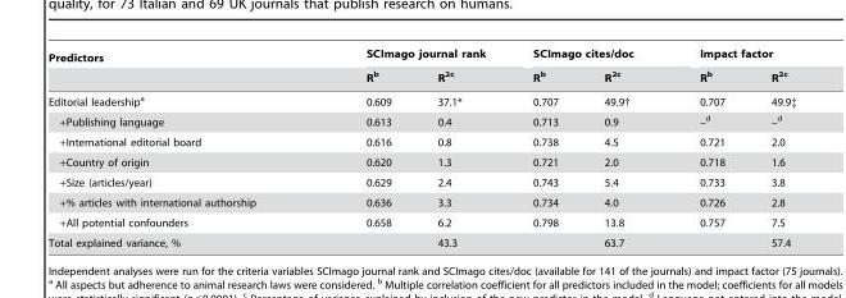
<table><thead><tr><td rowspan="2">Predictors</td><td colspan="2">SCImago journal rank</td><td colspan="2">SCImago cites/doc</td><td colspan="2">Impact factor</td></tr><tr><td>R<sup>b</sup></td><td>R<sup>2c</sup></td><td>R<sup>b</sup></td><td>R<sup>2c</sup></td><td>R<sup>b</sup></td><td>R<sup>2c</sup></td></tr></thead><tbody><tr><td>Editorial leadership<sup>a</sup></td><td>0.609</td><td>37.1*</td><td>0.707</td><td>49.9†</td><td>0.707</td><td>49.9‡</td></tr><tr><td>+Publishing language</td><td>0.613</td><td>0.4</td><td>0.713</td><td>0.9</td><td>–<sup>d</sup></td><td>–<sup>d</sup></td></tr><tr><td>+International editorial board</td><td>0.616</td><td>0.8</td><td>0.738</td><td>4.5</td><td>0.721</td><td>2.0</td></tr><tr><td>+Country of origin</td><td>0.620</td><td>1.3</td><td>0.721</td><td>2.0</td><td>0.718</td><td>1.6</td></tr><tr><td>+Size (articles/year)</td><td>0.629</td><td>2.4</td><td>0.743</td><td>5.4</td><td>0.733</td><td>3.8</td></tr><tr><td>+% articles with international authorship</td><td>0.636</td><td>3.3</td><td>0.734</td><td>4.0</td><td>0.726</td><td>2.8</td></tr><tr><td>+All potential confounders</td><td>0.658</td><td>6.2</td><td>0.798</td><td>13.8</td><td>0.757</td><td>7.5</td></tr><tr><td>Total explained variance, %</td><td></td><td>43.3</td><td></td><td>63.7</td><td></td><td>57.4</td></tr></tbody></table>